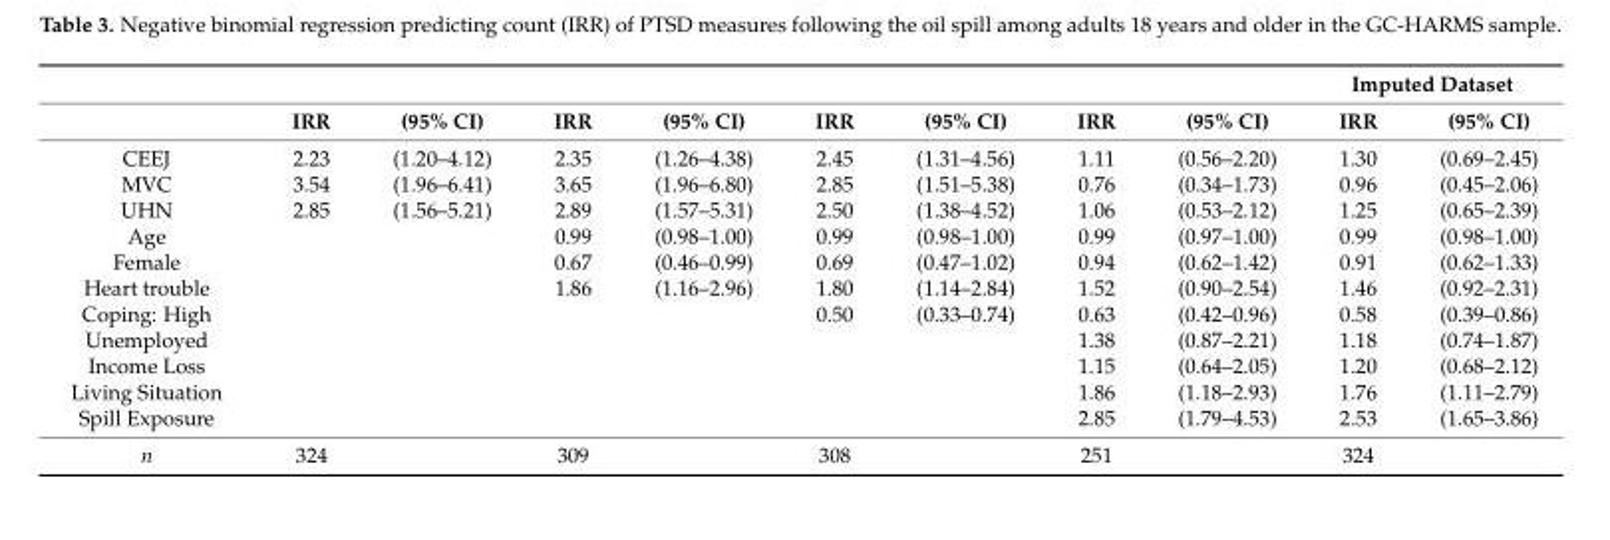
<table><thead><tr><td rowspan="2"></td><td rowspan="2">IRR</td><td rowspan="2">(95% CI)</td><td rowspan="2">IRR</td><td rowspan="2">(95% CI)</td><td rowspan="2">IRR</td><td rowspan="2">(95% CI)</td><td rowspan="2">IRR</td><td rowspan="2">(95% CI)</td><td colspan="2">Imputed Dataset</td></tr><tr><td>IRR</td><td>(95% CI)</td></tr></thead><tbody><tr><td>CEEJ</td><td>2.23</td><td>(1.20–4.12)</td><td>2.35</td><td>(1.26–4.38)</td><td>2.45</td><td>(1.31–4.56)</td><td>1.11</td><td>(0.56–2.20)</td><td>1.30</td><td>(0.69–2.45)</td></tr><tr><td>MVC</td><td>3.54</td><td>(1.96–6.41)</td><td>3.65</td><td>(1.96–6.80)</td><td>2.85</td><td>(1.51–5.38)</td><td>0.76</td><td>(0.34–1.73)</td><td>0.96</td><td>(0.45–2.06)</td></tr><tr><td>UHN</td><td>2.85</td><td>(1.56–5.21)</td><td>2.89</td><td>(1.57–5.31)</td><td>2.50</td><td>(1.38–4.52)</td><td>1.06</td><td>(0.53–2.12)</td><td>1.25</td><td>(0.65–2.39)</td></tr><tr><td>Age</td><td></td><td></td><td>0.99</td><td>(0.98–1.00)</td><td>0.99</td><td>(0.98–1.00)</td><td>0.99</td><td>(0.97–1.00)</td><td>0.99</td><td>(0.98–1.00)</td></tr><tr><td>Female</td><td></td><td></td><td>0.67</td><td>(0.46–0.99)</td><td>0.69</td><td>(0.47–1.02)</td><td>0.94</td><td>(0.62–1.42)</td><td>0.91</td><td>(0.62–1.33)</td></tr><tr><td>Heart trouble</td><td></td><td></td><td>1.86</td><td>(1.16–2.96)</td><td>1.80</td><td>(1.14–2.84)</td><td>1.52</td><td>(0.90–2.54)</td><td>1.46</td><td>(0.92–2.31)</td></tr><tr><td>Coping: High</td><td></td><td></td><td></td><td></td><td>0.50</td><td>(0.33–0.74)</td><td>0.63</td><td>(0.42–0.96)</td><td>0.58</td><td>(0.39–0.86)</td></tr><tr><td>Unemployed</td><td></td><td></td><td></td><td></td><td></td><td></td><td>1.38</td><td>(0.87–2.21)</td><td>1.18</td><td>(0.74–1.87)</td></tr><tr><td>Income Loss</td><td></td><td></td><td></td><td></td><td></td><td></td><td>1.15</td><td>(0.64–2.05)</td><td>1.20</td><td>(0.68–2.12)</td></tr><tr><td>Living Situation</td><td></td><td></td><td></td><td></td><td></td><td></td><td>1.86</td><td>(1.18–2.93)</td><td>1.76</td><td>(1.11–2.79)</td></tr><tr><td>Spill Exposure</td><td></td><td></td><td></td><td></td><td></td><td></td><td>2.85</td><td>(1.79–4.53)</td><td>2.53</td><td>(1.65–3.86)</td></tr><tr><td>n</td><td>324</td><td></td><td>309</td><td></td><td>308</td><td></td><td>251</td><td></td><td>324</td><td></td></tr></tbody></table>